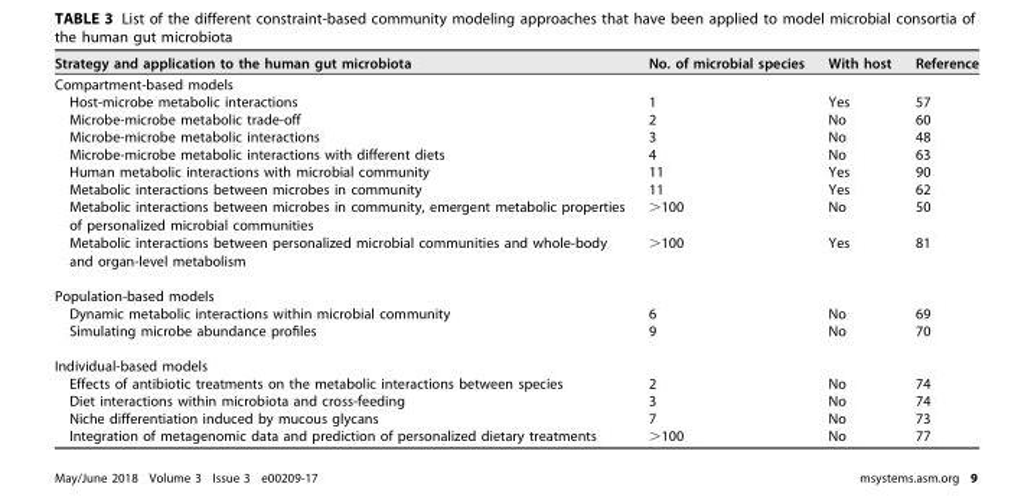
<table><thead><tr><td>Strategy and application to the human gut microbiota</td><td>No. of microbial species</td><td>With host</td><td>Reference</td></tr></thead><tbody><tr><td colspan="4">Compartment-based models</td></tr><tr><td>Host-microbe metabolic interactions</td><td>1</td><td>Yes</td><td>57</td></tr><tr><td>Microbe-microbe metabolic trade-off</td><td>2</td><td>No</td><td>60</td></tr><tr><td>Microbe-microbe metabolic interactions</td><td>3</td><td>No</td><td>48</td></tr><tr><td>Microbe-microbe metabolic interactions with different diets</td><td>4</td><td>No</td><td>63</td></tr><tr><td>Human metabolic interactions with microbial community</td><td>11</td><td>Yes</td><td>90</td></tr><tr><td>Metabolic interactions between microbes in community</td><td>11</td><td>Yes</td><td>62</td></tr><tr><td>Metabolic interactions between microbes in community, emergent metabolic properties of personalized microbial communities</td><td>&gt;100</td><td>No</td><td>50</td></tr><tr><td>Metabolic interactions between personalized microbial communities and whole-body and organ-level metabolism</td><td>&gt;100</td><td>Yes</td><td>81</td></tr><tr><td colspan="4">Population-based models</td></tr><tr><td>Dynamic metabolic interactions within microbial community</td><td>6</td><td>No</td><td>69</td></tr><tr><td>Simulating microbe abundance profiles</td><td>9</td><td>No</td><td>70</td></tr><tr><td colspan="4">Individual-based models</td></tr><tr><td>Effects of antibiotic treatments on the metabolic interactions between species</td><td>2</td><td>No</td><td>74</td></tr><tr><td>Diet interactions within microbiota and cross-feeding</td><td>3</td><td>No</td><td>74</td></tr><tr><td>Niche differentiation induced by mucous glycans</td><td>7</td><td>No</td><td>73</td></tr><tr><td>Integration of metagenomic data and prediction of personalized dietary treatments</td><td>&gt;100</td><td>No</td><td>77</td></tr></tbody></table>